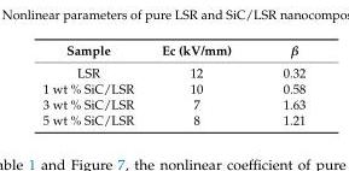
<table><thead><tr><td>Sample</td><td>Ec (kV/mm)</td><td>β</td></tr></thead><tbody><tr><td>LSR</td><td>12</td><td>0.32</td></tr><tr><td>1 wt % SiC/LSR</td><td>10</td><td>0.58</td></tr><tr><td>3 wt % SiC/LSR</td><td>7</td><td>1.63</td></tr><tr><td>5 wt % SiC/LSR</td><td>8</td><td>1.21</td></tr></tbody></table>